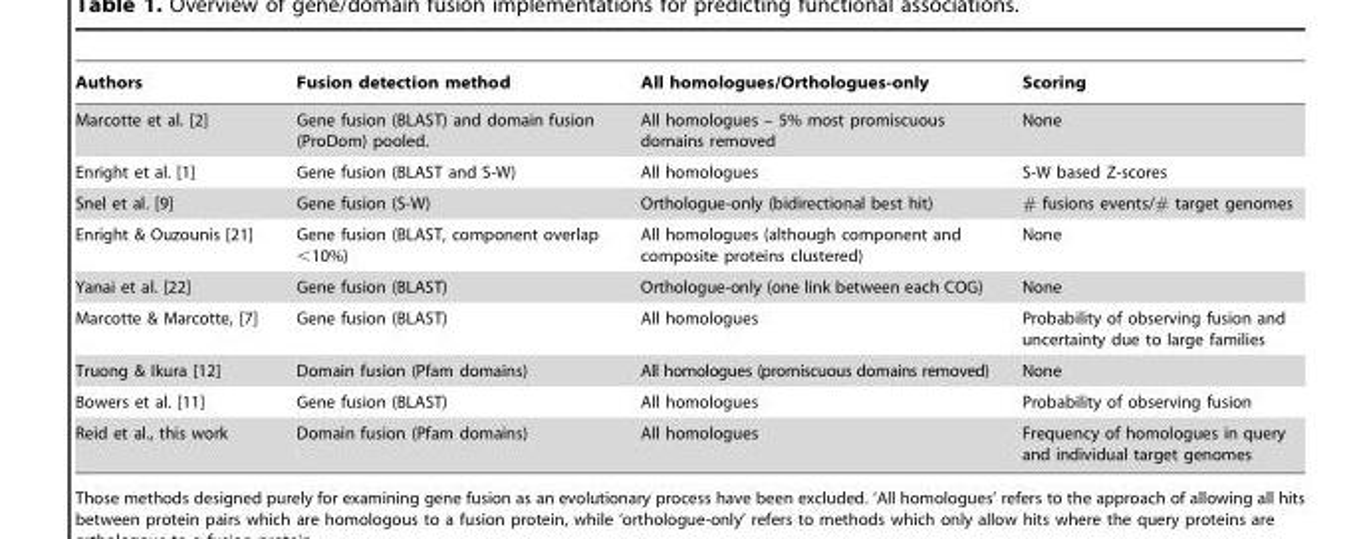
<table><thead><tr><td>Authors</td><td>Fusion detection method</td><td>All homologues/Orthologues-only</td><td>Scoring</td></tr></thead><tbody><tr><td>Marcotte et al. [2]</td><td>Gene fusion (BLAST) and domain fusion (ProDom) pooled.</td><td>All homologues – 5% most promiscuous domains removed</td><td>None</td></tr><tr><td>Enright et al. [1]</td><td>Gene fusion (BLAST and S-W)</td><td>All homologues</td><td>S-W based Z-scores</td></tr><tr><td>Snel et al. [9]</td><td>Gene fusion (S-W)</td><td>Orthologue-only (bidirectional best hit)</td><td># fusions events/# target genomes</td></tr><tr><td>Enright &amp; Ouzounis [21]</td><td>Gene fusion (BLAST, component overlap &lt;10%)</td><td>All homologues (although component and composite proteins clustered)</td><td>None</td></tr><tr><td>Yanai et al. [22]</td><td>Gene fusion (BLAST)</td><td>Orthologue-only (one link between each COG)</td><td>None</td></tr><tr><td>Marcotte &amp; Marcotte, [7]</td><td>Gene fusion (BLAST)</td><td>All homologues</td><td>Probability of observing fusion and uncertainty due to large families</td></tr><tr><td>Truong &amp; Ikura [12]</td><td>Domain fusion (Pfam domains)</td><td>All homologues (promiscuous domains removed)</td><td>None</td></tr><tr><td>Bowers et al. [11]</td><td>Gene fusion (BLAST)</td><td>All homologues</td><td>Probability of observing fusion</td></tr><tr><td>Reid et al., this work</td><td>Domain fusion (Pfam domains)</td><td>All homologues</td><td>Frequency of homologues in query and individual target genomes</td></tr></tbody></table>